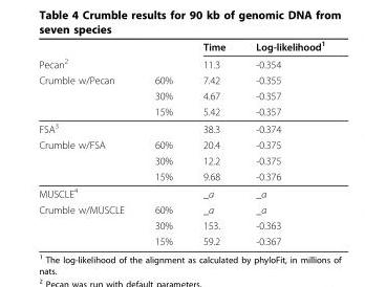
<table><thead><tr><td rowspan="5">Pecan<sup>2</sup> Crumble w/Pecan</td><td rowspan="5">60% 30% 15%</td><td rowspan="5">Time 11.3 7.42 4.67 5.42</td><td rowspan="5">Log-likelihood1 -0.354 -0.355 -0.357 -0.357</td></tr><tr></tr><tr></tr><tr></tr><tr></tr></thead><tbody><tr><td>FSA<sup>3</sup></td><td></td><td>38.3</td><td>-0.374</td></tr><tr><td rowspan="3">Crumble w/FSA</td><td>60%</td><td>20.4</td><td>-0.375</td></tr><tr><td>30%</td><td>12.2</td><td>-0.375</td></tr><tr><td>15%</td><td>9.68</td><td>-0.376</td></tr><tr><td>MUSCLE4</td><td></td><td>_a</td><td>_a</td></tr><tr><td rowspan="3">Crumble w/MUSCLE</td><td>60%</td><td>_a</td><td>_a</td></tr><tr><td>30%</td><td>153.</td><td>-0.363</td></tr><tr><td>15%</td><td>59.2</td><td>-0.367</td></tr></tbody></table>